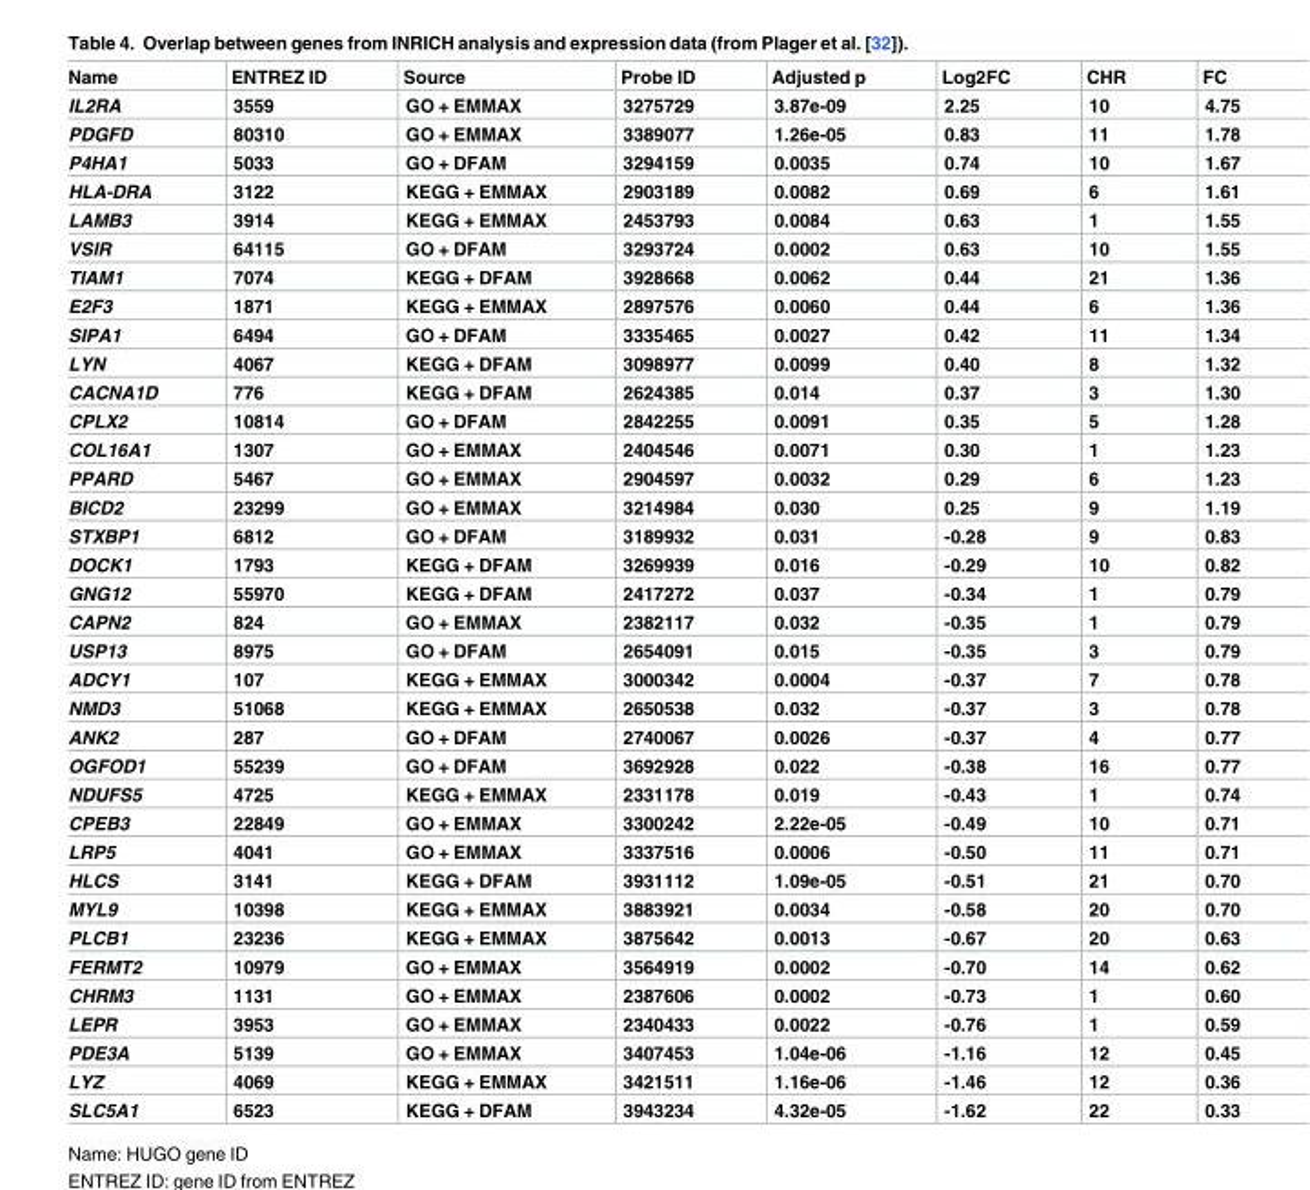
<table><thead><tr><td>Name</td><td>ENTREZ ID</td><td>Source</td><td>Probe ID</td><td>Adjusted p</td><td>Log2FC</td><td>CHR</td><td>FC</td></tr></thead><tbody><tr><td>IL2RA</td><td>3559</td><td>GO + EMMAX</td><td>3275729</td><td>3.87e-09</td><td>2.25</td><td>10</td><td>4.75</td></tr><tr><td>PDGFD</td><td>80310</td><td>GO + EMMAX</td><td>3389077</td><td>1.26e-05</td><td>0.83</td><td>11</td><td>1.78</td></tr><tr><td>P4HA1</td><td>5033</td><td>GO + DFAM</td><td>3294159</td><td>0.0035</td><td>0.74</td><td>10</td><td>1.67</td></tr><tr><td>HLA-DRA</td><td>3122</td><td>KEGG + EMMAX</td><td>2903189</td><td>0.0082</td><td>0.69</td><td>6</td><td>1.61</td></tr><tr><td>LAMB3</td><td>3914</td><td>KEGG + EMMAX</td><td>2453793</td><td>0.0084</td><td>0.63</td><td>1</td><td>1.55</td></tr><tr><td>VSIR</td><td>64115</td><td>GO + DFAM</td><td>3293724</td><td>0.0002</td><td>0.63</td><td>10</td><td>1.55</td></tr><tr><td>TIAM1</td><td>7074</td><td>KEGG + DFAM</td><td>3928668</td><td>0.0062</td><td>0.44</td><td>21</td><td>1.36</td></tr><tr><td>E2F3</td><td>1871</td><td>KEGG + EMMAX</td><td>2897576</td><td>0.0060</td><td>0.44</td><td>6</td><td>1.36</td></tr><tr><td>SIPA1</td><td>6494</td><td>GO + DFAM</td><td>3335465</td><td>0.0027</td><td>0.42</td><td>11</td><td>1.34</td></tr><tr><td>LYN</td><td>4067</td><td>KEGG + DFAM</td><td>3098977</td><td>0.0099</td><td>0.40</td><td>8</td><td>1.32</td></tr><tr><td>CACNA1D</td><td>776</td><td>KEGG + DFAM</td><td>2624385</td><td>0.014</td><td>0.37</td><td>3</td><td>1.30</td></tr><tr><td>CPLX2</td><td>10814</td><td>GO + DFAM</td><td>2842255</td><td>0.0091</td><td>0.35</td><td>5</td><td>1.28</td></tr><tr><td>COL16A1</td><td>1307</td><td>GO + EMMAX</td><td>2404546</td><td>0.0071</td><td>0.30</td><td>1</td><td>1.23</td></tr><tr><td>PPARD</td><td>5467</td><td>GO + EMMAX</td><td>2904597</td><td>0.0032</td><td>0.29</td><td>6</td><td>1.23</td></tr><tr><td>BICD2</td><td>23299</td><td>GO + EMMAX</td><td>3214984</td><td>0.030</td><td>0.25</td><td>9</td><td>1.19</td></tr><tr><td>STXBP1</td><td>6812</td><td>GO + DFAM</td><td>3189932</td><td>0.031</td><td>-0.28</td><td>9</td><td>0.83</td></tr><tr><td>DOCK1</td><td>1793</td><td>KEGG + DFAM</td><td>3269939</td><td>0.016</td><td>-0.29</td><td>10</td><td>0.82</td></tr><tr><td>GNG12</td><td>55970</td><td>KEGG + DFAM</td><td>2417272</td><td>0.037</td><td>-0.34</td><td>1</td><td>0.79</td></tr><tr><td>CAPN2</td><td>824</td><td>GO + EMMAX</td><td>2382117</td><td>0.032</td><td>-0.35</td><td>1</td><td>0.79</td></tr><tr><td>USP13</td><td>8975</td><td>GO + DFAM</td><td>2654091</td><td>0.015</td><td>-0.35</td><td>3</td><td>0.79</td></tr><tr><td>ADCY1</td><td>107</td><td>KEGG + EMMAX</td><td>3000342</td><td>0.0004</td><td>-0.37</td><td>7</td><td>0.78</td></tr><tr><td>NMD3</td><td>51068</td><td>KEGG + EMMAX</td><td>2650538</td><td>0.032</td><td>-0.37</td><td>3</td><td>0.78</td></tr><tr><td>ANK2</td><td>287</td><td>GO + DFAM</td><td>2740067</td><td>0.0026</td><td>-0.37</td><td>4</td><td>0.77</td></tr><tr><td>OGFOD1</td><td>55239</td><td>GO + DFAM</td><td>3692928</td><td>0.022</td><td>-0.38</td><td>16</td><td>0.77</td></tr><tr><td>NDUFS5</td><td>4725</td><td>KEGG + EMMAX</td><td>2331178</td><td>0.019</td><td>-0.43</td><td>1</td><td>0.74</td></tr><tr><td>CPEB3</td><td>22849</td><td>GO + EMMAX</td><td>3300242</td><td>2.22e-05</td><td>-0.49</td><td>10</td><td>0.71</td></tr><tr><td>LRP5</td><td>4041</td><td>GO + EMMAX</td><td>3337516</td><td>0.0006</td><td>-0.50</td><td>11</td><td>0.71</td></tr><tr><td>HLCS</td><td>3141</td><td>KEGG + DFAM</td><td>3931112</td><td>1.09e-05</td><td>-0.51</td><td>21</td><td>0.70</td></tr><tr><td>MYL9</td><td>10398</td><td>KEGG + EMMAX</td><td>3883921</td><td>0.0034</td><td>-0.58</td><td>20</td><td>0.70</td></tr><tr><td>PLCB1</td><td>23236</td><td>KEGG + EMMAX</td><td>3875642</td><td>0.0013</td><td>-0.67</td><td>20</td><td>0.63</td></tr><tr><td>FERMT2</td><td>10979</td><td>GO + EMMAX</td><td>3564919</td><td>0.0002</td><td>-0.70</td><td>14</td><td>0.62</td></tr><tr><td>CHRM3</td><td>1131</td><td>GO + EMMAX</td><td>2387606</td><td>0.0002</td><td>-0.73</td><td>1</td><td>0.60</td></tr><tr><td>LEPR</td><td>3953</td><td>GO + EMMAX</td><td>2340433</td><td>0.0022</td><td>-0.76</td><td>1</td><td>0.59</td></tr><tr><td>PDE3A</td><td>5139</td><td>GO + EMMAX</td><td>3407453</td><td>1.04e-06</td><td>-1.16</td><td>12</td><td>0.45</td></tr><tr><td>LYZ</td><td>4069</td><td>KEGG + EMMAX</td><td>3421511</td><td>1.16e-06</td><td>-1.46</td><td>12</td><td>0.36</td></tr><tr><td>SLC5A1</td><td>6523</td><td>KEGG + DFAM</td><td>3943234</td><td>4.32e-05</td><td>-1.62</td><td>22</td><td>0.33</td></tr></tbody></table>